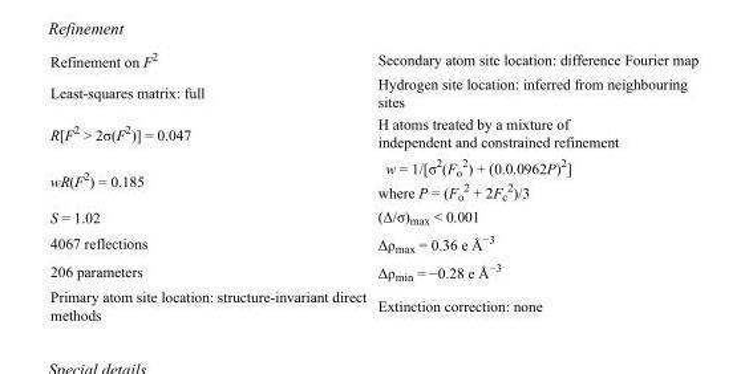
<table><tbody><tr><td>Refinement on F<sup>2</sup></td><td>Secondary atom site location: difference Fourier map</td></tr><tr><td>Least-squares matrix: full</td><td>Hydrogen site location: inferred from neighbouring sites</td></tr><tr><td>R[F<sup>2</sup> &gt; 2σ(F<sup>2</sup>)] = 0.047</td><td>H atoms treated by a mixture of independent and constrained refinement</td></tr><tr><td>wR(F<sup>2</sup>) = 0.185</td><td>w = 1/[σ<sup>2</sup>(F<sub>o</sub> <sup>2</sup>) + (0.0.0962P)<sup>2</sup>] where P = (F<sub>o</sub> <sup>2</sup> + 2F<sub>c</sub> <sup>2</sup>)/3</td></tr><tr><td>S = 1.02</td><td>(Δ/σ)<sub>max</sub> &lt; 0.001</td></tr><tr><td>4067 reflections</td><td>Δρ<sub>max</sub> = 0.36 e Å<sup>−3</sup></td></tr><tr><td>206 parameters</td><td>Δρ<sub>min</sub> = −0.28 e Å<sup>−3</sup></td></tr><tr><td>Primary atom site location: structure-invariant direct methods</td><td>Extinction correction: none</td></tr></tbody></table>